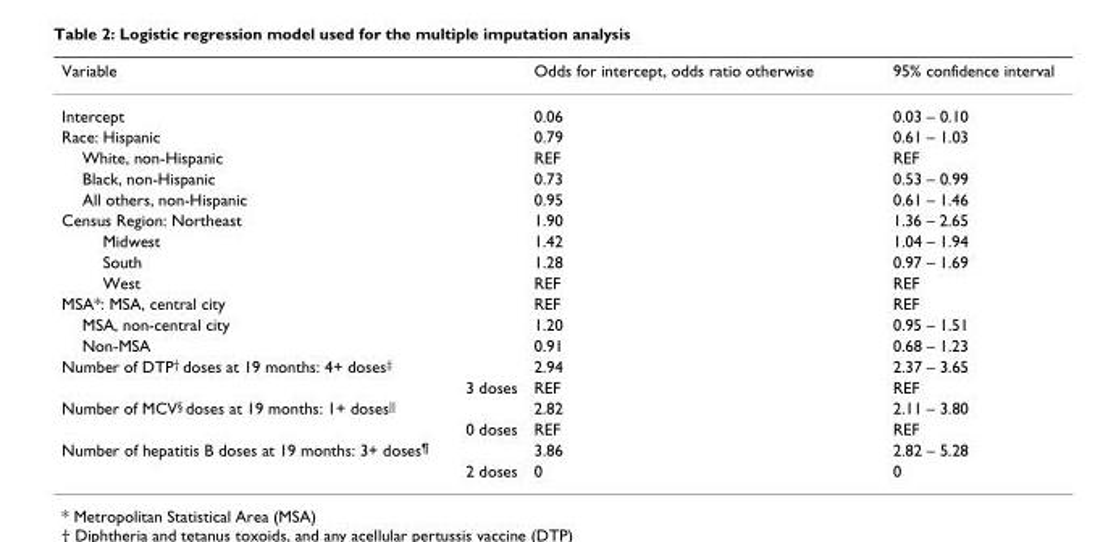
<table><thead><tr><td>Variable</td><td>Odds for intercept, odds ratio otherwise</td><td>95% confidence interval</td></tr></thead><tbody><tr><td>Intercept</td><td>0.06</td><td>0.03 – 0.10</td></tr><tr><td>Race: Hispanic</td><td>0.79</td><td>0.61 – 1.03</td></tr><tr><td>White, non-Hispanic</td><td>REF</td><td>REF</td></tr><tr><td>Black, non-Hispanic</td><td>0.73</td><td>0.53 – 0.99</td></tr><tr><td>All others, non-Hispanic</td><td>0.95</td><td>0.61 – 1.46</td></tr><tr><td>Census Region: Northeast</td><td>1.90</td><td>1.36 – 2.65</td></tr><tr><td>Midwest</td><td>1.42</td><td>1.04 – 1.94</td></tr><tr><td>South</td><td>1.28</td><td>0.97 – 1.69</td></tr><tr><td>West</td><td>REF</td><td>REF</td></tr><tr><td>MSA*: MSA, central city</td><td>REF</td><td>REF</td></tr><tr><td>MSA, non-central city</td><td>1.20</td><td>0.95 – 1.51</td></tr><tr><td>Non-MSA</td><td>0.91</td><td>0.68 – 1.23</td></tr><tr><td>Number of DTP<sup>†</sup> doses at 19 months: 4+ doses<sup>‡</sup></td><td>2.94</td><td>2.37 – 3.65</td></tr><tr><td>3 doses</td><td>REF</td><td>REF</td></tr><tr><td>Number of MCV<sup>§</sup> doses at 19 months: 1+ doses<sup>||</sup></td><td>2.82</td><td>2.11 – 3.80</td></tr><tr><td>0 doses</td><td>REF</td><td>REF</td></tr><tr><td>Number of hepatitis B doses at 19 months: 3+ doses<sup>¶</sup></td><td>3.86</td><td>2.82 – 5.28</td></tr><tr><td>2 doses</td><td>0</td><td>0</td></tr></tbody></table>